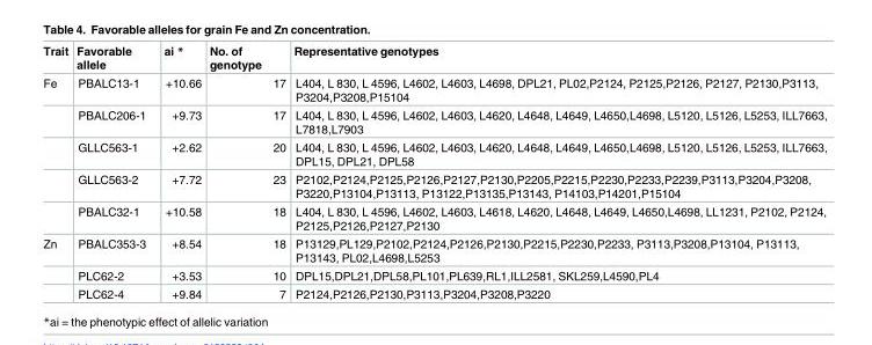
<table><thead><tr><td>Trait</td><td>Favorable allele</td><td>ai *</td><td>No. of genotype</td><td>Representative genotypes</td></tr></thead><tbody><tr><td rowspan="5">Fe</td><td>PBALC13-1</td><td>+10.66</td><td>17</td><td>L404, L 830, L 4596, L4602, L4603, L4698, DPL21, PL02,P2124, P2125,P2126, P2127, P2130,P3113, P3204,P3208,P15104</td></tr><tr><td>PBALC206-1</td><td>+9.73</td><td>17</td><td>L404, L 830, L 4596, L4602, L4603, L4620, L4648, L4649, L4650,L4698, L5120, L5126, L5253, ILL7663, L7818,L7903</td></tr><tr><td>GLLC563-1</td><td>+2.62</td><td>20</td><td>L404, L 830, L 4596, L4602, L4603, L4620, L4648, L4649, L4650,L4698, L5120, L5126, L5253, ILL7663, DPL15, DPL21, DPL58</td></tr><tr><td>GLLC563-2</td><td>+7.72</td><td>23</td><td>P2102,P2124,P2125,P2126,P2127,P2130,P2205,P2215,P2230,P2233,P2239,P3113,P3204,P3208, P3220,P13104,P13113, P13122,P13135,P13143, P14103,P14201,P15104</td></tr><tr><td>PBALC32-1</td><td>+10.58</td><td>18</td><td>L404, L 830, L 4596, L4602, L4603, L4618, L4620, L4648, L4649, L4650,L4698, LL1231, P2102, P2124, P2125,P2126,P2127,P2130</td></tr><tr><td rowspan="3">Zn</td><td>PBALC353-3</td><td>+8.54</td><td>18</td><td>P13129,PL129,P2102,P2124,P2126,P2130,P2215,P2230,P2233, P3113,P3208,P13104, P13113, P13143, PL02,L4698,L5253</td></tr><tr><td>PLC62-2</td><td>+3.53</td><td>10</td><td>DPL15,DPL21,DPL58,PL101,PL639,RL1,ILL2581, SKL259,L4590,PL4</td></tr><tr><td>PLC62-4</td><td>+9.84</td><td>7</td><td>P2124,P2126,P2130,P3113,P3204,P3208,P3220</td></tr></tbody></table>